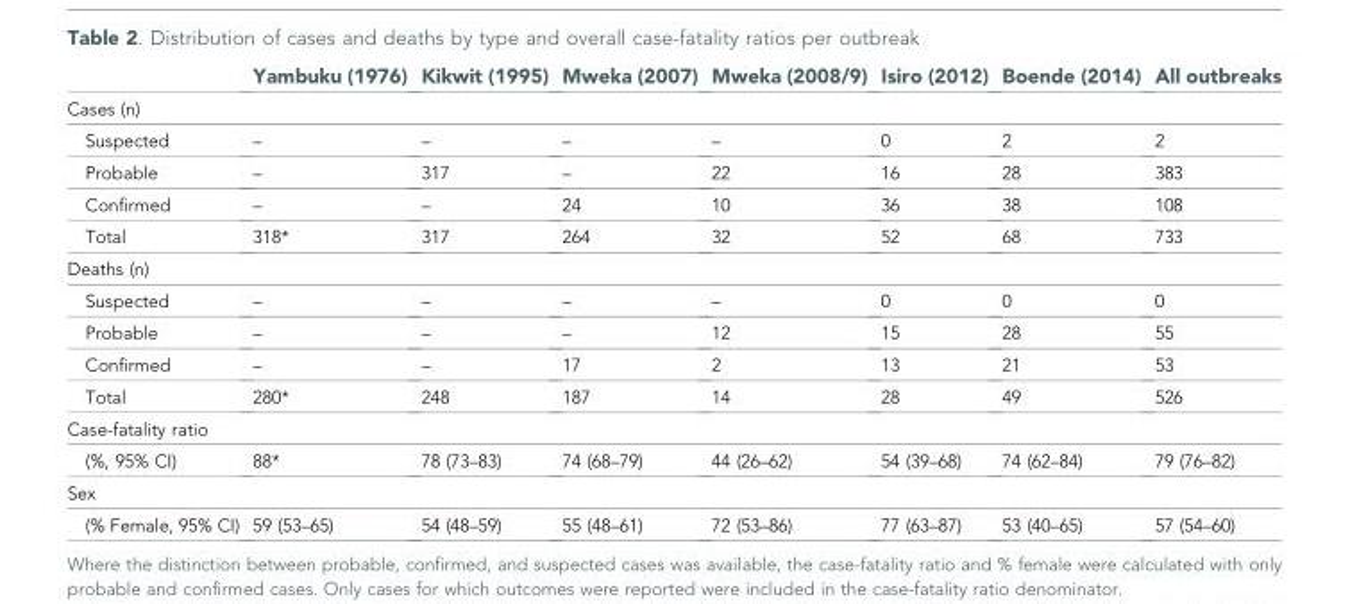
<table><thead><tr><td></td><td>Yambuku (1976)</td><td>Kikwit (1995)</td><td>Mweka (2007)</td><td>Mweka (2008/9)</td><td>Isiro (2012)</td><td>Boende (2014)</td><td>All outbreaks</td></tr></thead><tbody><tr><td colspan="8">Cases (n)</td></tr><tr><td>Suspected</td><td>–</td><td>–</td><td>–</td><td>–</td><td>0</td><td>2</td><td>2</td></tr><tr><td>Probable</td><td>–</td><td>317</td><td>–</td><td>22</td><td>16</td><td>28</td><td>383</td></tr><tr><td>Confirmed</td><td>–</td><td>–</td><td>24</td><td>10</td><td>36</td><td>38</td><td>108</td></tr><tr><td>Total</td><td>318*</td><td>317</td><td>264</td><td>32</td><td>52</td><td>68</td><td>733</td></tr><tr><td colspan="8">Deaths (n)</td></tr><tr><td>Suspected</td><td>–</td><td>–</td><td>–</td><td>–</td><td>0</td><td>0</td><td>0</td></tr><tr><td>Probable</td><td>–</td><td>–</td><td>–</td><td>12</td><td>15</td><td>28</td><td>55</td></tr><tr><td>Confirmed</td><td>–</td><td>–</td><td>17</td><td>2</td><td>13</td><td>21</td><td>53</td></tr><tr><td>Total</td><td>280*</td><td>248</td><td>187</td><td>14</td><td>28</td><td>49</td><td>526</td></tr><tr><td colspan="8">Case-fatality ratio</td></tr><tr><td>(%, 95% CI)</td><td>88*</td><td>78 (73–83)</td><td>74 (68–79)</td><td>44 (26–62)</td><td>54 (39–68)</td><td>74 (62–84)</td><td>79 (76–82)</td></tr><tr><td colspan="8">Sex</td></tr><tr><td>(% Female, 95% CI)</td><td>59 (53–65)</td><td>54 (48–59)</td><td>55 (48–61)</td><td>72 (53–86)</td><td>77 (63–87)</td><td>53 (40–65)</td><td>57 (54–60)</td></tr></tbody></table>